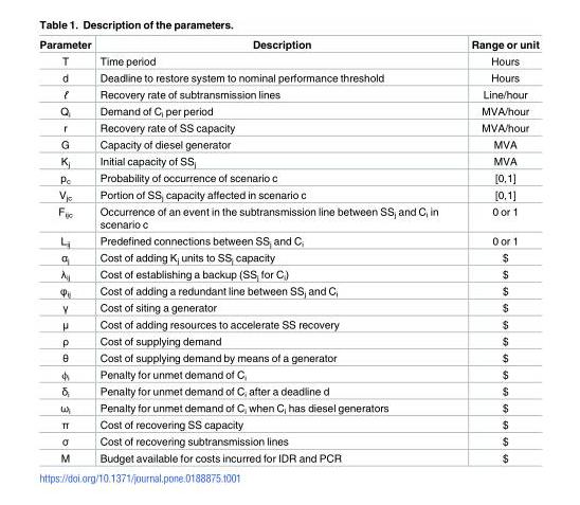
<table><thead><tr><td>Parameter</td><td>Description</td><td>Range or unit</td></tr></thead><tbody><tr><td>T</td><td>Time period</td><td>Hours</td></tr><tr><td>d</td><td>Deadline to restore system to nominal performance threshold</td><td>Hours</td></tr><tr><td>ℓ</td><td>Recovery rate of subtransmission lines</td><td>Line/hour</td></tr><tr><td>Q<sub>i</sub></td><td>Demand of C<sub>i</sub> per period</td><td>MVA/hour</td></tr><tr><td>r</td><td>Recovery rate of SS capacity</td><td>MVA/hour</td></tr><tr><td>G</td><td>Capacity of diesel generator</td><td>MVA</td></tr><tr><td>K<sub>j</sub></td><td>Initial capacity of SS<sub>j</sub></td><td>MVA</td></tr><tr><td>p<sub>c</sub></td><td>Probability of occurrence of scenario c</td><td>[0,1]</td></tr><tr><td>V<sub>jc</sub></td><td>Portion of SS<sub>j</sub> capacity affected in scenario c</td><td>[0,1]</td></tr><tr><td>F<sub>ijc</sub></td><td>Occurrence of an event in the subtransmission line between SS<sub>j</sub> and C<sub>i</sub> in scenario c</td><td>0 or 1</td></tr><tr><td>L<sub>ij</sub></td><td>Predefined connections between SS<sub>j</sub> and C<sub>i</sub></td><td>0 or 1</td></tr><tr><td>α<sub>j</sub></td><td>Cost of adding K<sub>j</sub> units to SS<sub>j</sub> capacity</td><td>$</td></tr><tr><td>λ<sub>ij</sub></td><td>Cost of establishing a backup (SS<sub>j</sub> for C<sub>i</sub>)</td><td>$</td></tr><tr><td>φ<sub>ij</sub></td><td>Cost of adding a redundant line between SS<sub>j</sub> and C<sub>i</sub></td><td>$</td></tr><tr><td>γ</td><td>Cost of siting a generator</td><td>$</td></tr><tr><td>μ</td><td>Cost of adding resources to accelerate SS recovery</td><td>$</td></tr><tr><td>ρ</td><td>Cost of supplying demand</td><td>$</td></tr><tr><td>θ</td><td>Cost of supplying demand by means of a generator</td><td>$</td></tr><tr><td>ϕ<sub>i</sub></td><td>Penalty for unmet demand of C<sub>i</sub></td><td>$</td></tr><tr><td>δ<sub>i</sub></td><td>Penalty for unmet demand of C<sub>i</sub> after a deadline d</td><td>$</td></tr><tr><td>ω<sub>i</sub></td><td>Penalty for unmet demand of C<sub>i</sub> when C<sub>i</sub> has diesel generators</td><td>$</td></tr><tr><td>π</td><td>Cost of recovering SS capacity</td><td>$</td></tr><tr><td>σ</td><td>Cost of recovering subtransmission lines</td><td>$</td></tr><tr><td>M</td><td>Budget available for costs incurred for IDR and PCR</td><td>$</td></tr></tbody></table>